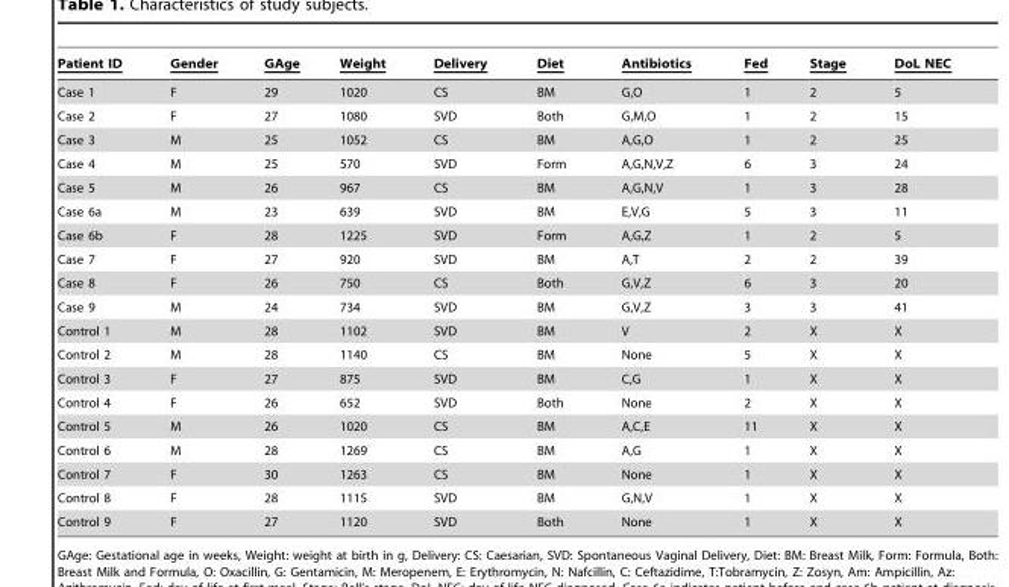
<table><thead><tr><td>Patient ID</td><td>Gender</td><td>GAge</td><td>Weight</td><td>Delivery</td><td>Diet</td><td>Antibiotics</td><td>Fed</td><td>Stage</td><td>DoL NEC</td></tr></thead><tbody><tr><td>Case 1</td><td>F</td><td>29</td><td>1020</td><td>CS</td><td>BM</td><td>G,O</td><td>1</td><td>2</td><td>5</td></tr><tr><td>Case 2</td><td>F</td><td>27</td><td>1080</td><td>SVD</td><td>Both</td><td>G,M,O</td><td>1</td><td>2</td><td>15</td></tr><tr><td>Case 3</td><td>M</td><td>25</td><td>1052</td><td>CS</td><td>BM</td><td>A,G,O</td><td>1</td><td>2</td><td>25</td></tr><tr><td>Case 4</td><td>M</td><td>25</td><td>570</td><td>SVD</td><td>Form</td><td>A,G,N,V,Z</td><td>6</td><td>3</td><td>24</td></tr><tr><td>Case 5</td><td>M</td><td>26</td><td>967</td><td>CS</td><td>BM</td><td>A,G,N,V</td><td>1</td><td>3</td><td>28</td></tr><tr><td>Case 6a</td><td>M</td><td>23</td><td>639</td><td>SVD</td><td>BM</td><td>E,V,G</td><td>5</td><td>3</td><td>11</td></tr><tr><td>Case 6b</td><td>F</td><td>28</td><td>1225</td><td>SVD</td><td>Form</td><td>A,G,Z</td><td>1</td><td>2</td><td>5</td></tr><tr><td>Case 7</td><td>F</td><td>27</td><td>920</td><td>SVD</td><td>BM</td><td>A,T</td><td>2</td><td>2</td><td>39</td></tr><tr><td>Case 8</td><td>F</td><td>26</td><td>750</td><td>CS</td><td>Both</td><td>G,V,Z</td><td>6</td><td>3</td><td>20</td></tr><tr><td>Case 9</td><td>M</td><td>24</td><td>734</td><td>SVD</td><td>BM</td><td>G,V,Z</td><td>3</td><td>3</td><td>41</td></tr><tr><td>Control 1</td><td>M</td><td>28</td><td>1102</td><td>SVD</td><td>BM</td><td>V</td><td>2</td><td>X</td><td>X</td></tr><tr><td>Control 2</td><td>M</td><td>28</td><td>1140</td><td>CS</td><td>BM</td><td>None</td><td>5</td><td>X</td><td>X</td></tr><tr><td>Control 3</td><td>F</td><td>27</td><td>875</td><td>SVD</td><td>BM</td><td>C,G</td><td>1</td><td>X</td><td>X</td></tr><tr><td>Control 4</td><td>F</td><td>26</td><td>652</td><td>SVD</td><td>Both</td><td>None</td><td>2</td><td>X</td><td>X</td></tr><tr><td>Control 5</td><td>M</td><td>26</td><td>1020</td><td>CS</td><td>BM</td><td>A,C,E</td><td>11</td><td>X</td><td>X</td></tr><tr><td>Control 6</td><td>M</td><td>28</td><td>1269</td><td>CS</td><td>BM</td><td>A,G</td><td>1</td><td>X</td><td>X</td></tr><tr><td>Control 7</td><td>F</td><td>30</td><td>1263</td><td>CS</td><td>BM</td><td>None</td><td>1</td><td>X</td><td>X</td></tr><tr><td>Control 8</td><td>F</td><td>28</td><td>1115</td><td>SVD</td><td>BM</td><td>G,N,V</td><td>1</td><td>X</td><td>X</td></tr><tr><td>Control 9</td><td>F</td><td>27</td><td>1120</td><td>SVD</td><td>Both</td><td>None</td><td>1</td><td>X</td><td>X</td></tr></tbody></table>